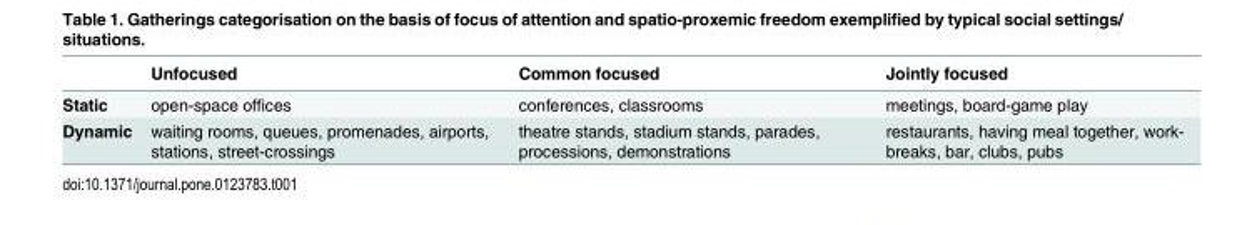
<table><thead><tr><td></td><td>Unfocused</td><td>Common focused</td><td>Jointly focused</td></tr></thead><tbody><tr><td>Static</td><td>open-space offices</td><td>conferences, classrooms</td><td>meetings, board-game play</td></tr><tr><td>Dynamic</td><td>waiting rooms, queues, promenades, airports, stations, street-crossings</td><td>theatre stands, stadium stands, parades, processions, demonstrations</td><td>restaurants, having meal together, work- breaks, bar, clubs, pubs</td></tr></tbody></table>